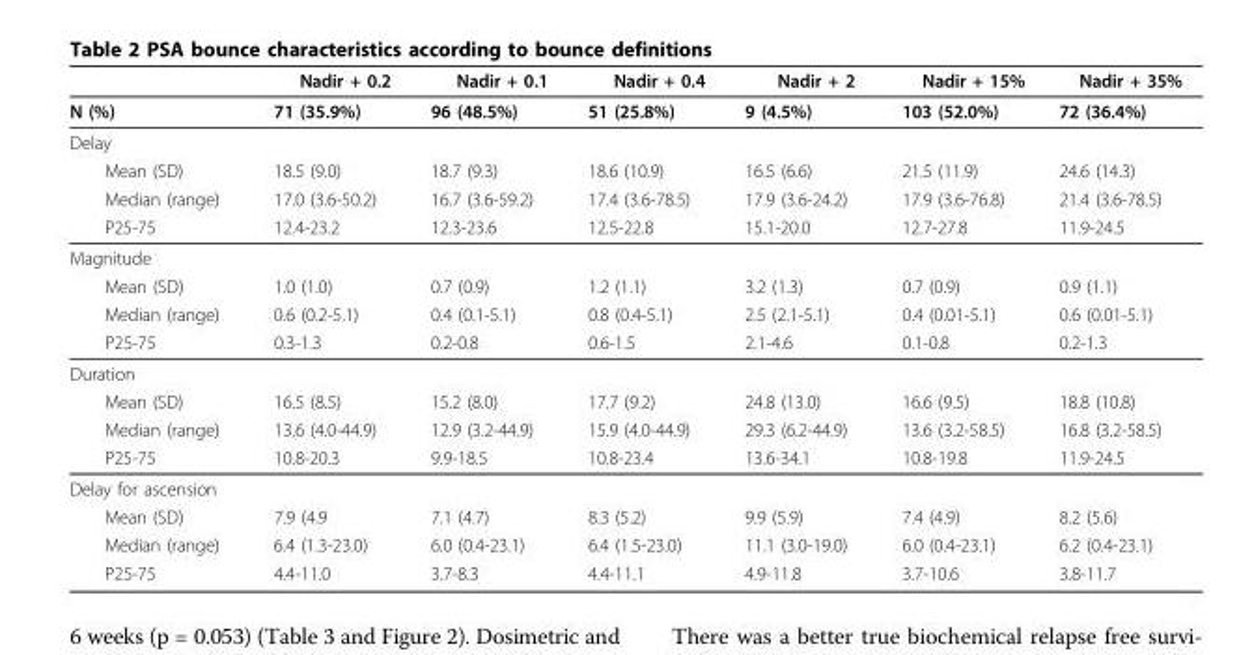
<table><thead><tr><td></td><td>Nadir + 0.2</td><td>Nadir + 0.1</td><td>Nadir + 0.4</td><td>Nadir + 2</td><td>Nadir + 15%</td><td>Nadir + 35%</td></tr></thead><tbody><tr><td>N (%)</td><td>71 (35.9%)</td><td>96 (48.5%)</td><td>51 (25.8%)</td><td>9 (4.5%)</td><td>103 (52.0%)</td><td>72 (36.4%)</td></tr><tr><td colspan="7">Delay</td></tr><tr><td>Mean (SD)</td><td>18.5 (9.0)</td><td>18.7 (9.3)</td><td>18.6 (10.9)</td><td>16.5 (6.6)</td><td>21.5 (11.9)</td><td>24.6 (14.3)</td></tr><tr><td>Median (range)</td><td>17.0 (3.6-50.2)</td><td>16.7 (3.6-59.2)</td><td>17.4 (3.6-78.5)</td><td>17.9 (3.6-24.2)</td><td>17.9 (3.6-76.8)</td><td>21.4 (3.6-78.5)</td></tr><tr><td>P25-75</td><td>12.4-23.2</td><td>12.3-23.6</td><td>12.5-22.8</td><td>15.1-20.0</td><td>12.7-27.8</td><td>11.9-24.5</td></tr><tr><td colspan="7">Magnitude</td></tr><tr><td>Mean (SD)</td><td>1.0 (1.0)</td><td>0.7 (0.9)</td><td>1.2 (1.1)</td><td>3.2 (1.3)</td><td>0.7 (0.9)</td><td>0.9 (1.1)</td></tr><tr><td>Median (range)</td><td>0.6 (0.2-5.1)</td><td>0.4 (0.1-5.1)</td><td>0.8 (0.4-5.1)</td><td>2.5 (2.1-5.1)</td><td>0.4 (0.01-5.1)</td><td>0.6 (0.01-5.1)</td></tr><tr><td>P25-75</td><td>0.3-1.3</td><td>0.2-0.8</td><td>0.6-1.5</td><td>2.1-4.6</td><td>0.1-0.8</td><td>0.2-1.3</td></tr><tr><td colspan="7">Duration</td></tr><tr><td>Mean (SD)</td><td>16.5 (8.5)</td><td>15.2 (8.0)</td><td>17.7 (9.2)</td><td>24.8 (13.0)</td><td>16.6 (9.5)</td><td>18.8 (10.8)</td></tr><tr><td>Median (range)</td><td>13.6 (4.0-44.9)</td><td>12.9 (3.2-44.9)</td><td>15.9 (4.0-44.9)</td><td>29.3 (6.2-44.9)</td><td>13.6 (3.2-58.5)</td><td>16.8 (3.2-58.5)</td></tr><tr><td>P25-75</td><td>10.8-20.3</td><td>9.9-18.5</td><td>10.8-23.4</td><td>13.6-34.1</td><td>10.8-19.8</td><td>11.9-24.5</td></tr><tr><td colspan="7">Delay for ascension</td></tr><tr><td>Mean (SD)</td><td>7.9 (4.9</td><td>7.1 (4.7)</td><td>8.3 (5.2)</td><td>9.9 (5.9)</td><td>7.4 (4.9)</td><td>8.2 (5.6)</td></tr><tr><td>Median (range)</td><td>6.4 (1.3-23.0)</td><td>6.0 (0.4-23.1)</td><td>6.4 (1.5-23.0)</td><td>11.1 (3.0-19.0)</td><td>6.0 (0.4-23.1)</td><td>6.2 (0.4-23.1)</td></tr><tr><td>P25-75</td><td>4.4-11.0</td><td>3.7-8.3</td><td>4.4-11.1</td><td>4.9-11.8</td><td>3.7-10.6</td><td>3.8-11.7</td></tr></tbody></table>